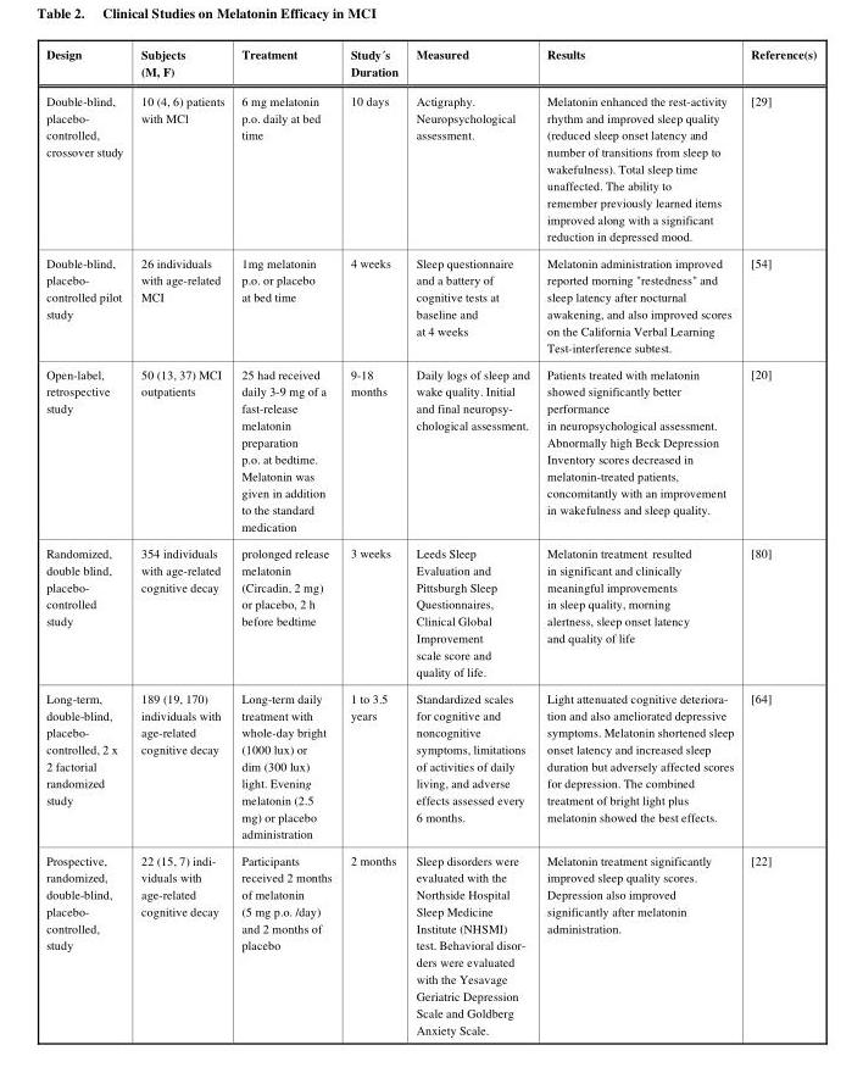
<table><thead><tr><td>Design</td><td>Subjects (M, F)</td><td>Treatment</td><td>Study´s Duration</td><td>Measured</td><td>Results</td><td>Reference(s)</td></tr></thead><tbody><tr><td>Double-blind, placebo- controlled, crossover study</td><td>10 (4, 6) patients with MCl</td><td>6 mg melatonin p.o. daily at bed time</td><td>10 days</td><td>Actigraphy. Neuropsychological assessment.</td><td>Melatonin enhanced the rest-activity rhythm and improved sleep quality (reduced sleep onset latency and number of transitions from sleep to wakefulness). Total sleep time unaffected. The ability to remember previously learned items improved along with a significant reduction in depressed mood.</td><td>[29]</td></tr><tr><td>Double-blind, placebo- controlled pilot study</td><td>26 individuals with age-related MCI</td><td>1mg melatonin p.o. or placebo at bed time</td><td>4 weeks</td><td>Sleep questionnaire and a battery of cognitive tests at baseline and at 4 weeks</td><td>Melatonin administration improved reported morning &quot;restedness&quot; and sleep latency after nocturnal awakening, and also improved scores on the California Verbal Learning Test-interference subtest.</td><td>[54]</td></tr><tr><td>Open-label, retrospective study</td><td>50 (13, 37) MCI outpatients</td><td>25 had received daily 3-9 mg of a fast-release melatonin preparation p.o. at bedtime. Melatonin was given in addition to the standard medication</td><td>9-18 months</td><td>Daily logs of sleep and wake quality. Initial and final neuropsy- chological assessment.</td><td>Patients treated with melatonin showed significantly better performance in neuropsychological assessment. Abnormally high Beck Depression Inventory scores decreased in melatonin-treated patients, concomitantly with an improvement in wakefulness and sleep quality.</td><td>[20]</td></tr><tr><td>Randomized, double blind, placebo- controlled study</td><td>354 individuals with age-related cognitive decay</td><td>prolonged release melatonin (Circadin, 2 mg) or placebo, 2 h before bedtime</td><td>3 weeks</td><td>Leeds Sleep Evaluation and Pittsburgh Sleep Questionnaires, Clinical Global Improvement scale score and quality of life.</td><td>Melatonin treatment resulted in significant and clinically meaningful improvements in sleep quality, morning alertness, sleep onset latency and quality of life</td><td>[80]</td></tr><tr><td>Long-term, double-blind, placebo- controlled, 2 x 2 factorial randomized study</td><td>189 (19, 170) individuals with age-related cognitive decay</td><td>Long-term daily treatment with whole-day bright (1000 lux) or dim (300 lux) light. Evening melatonin (2.5 mg) or placebo administration</td><td>1 to 3.5 years</td><td>Standardized scales for cognitive and noncognitive symptoms, limitations of activities of daily living, and adverse effects assessed every 6 months.</td><td>Light attenuated cognitive deteriora- tion and also ameliorated depressive symptoms. Melatonin shortened sleep onset latency and increased sleep duration but adversely affected scores for depression. The combined treatment of bright light plus melatonin showed the best effects.</td><td>[64]</td></tr><tr><td>Prospective, randomized, double-blind, placebo- controlled, study</td><td>22 (15, 7) indi- viduals with age-related cognitive decay</td><td>Participants received 2 months of melatonin (5 mg p.o. /day) and 2 months of placebo</td><td>2 months</td><td>Sleep disorders were evaluated with the Northside Hospital Sleep Medicine Institute (NHSMI) test. Behavioral disor- ders were evaluated with the Yesavage Geriatric Depression Scale and Goldberg Anxiety Scale.</td><td>Melatonin treatment significantly improved sleep quality scores. Depression also improved significantly after melatonin administration.</td><td>[22]</td></tr></tbody></table>